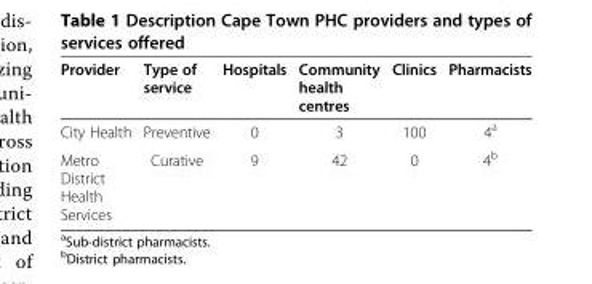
<table><thead><tr><td>Provider</td><td>Type of service</td><td>Hospitals</td><td>Community health centres</td><td>Clinics</td><td>Pharmacists</td></tr></thead><tbody><tr><td>City Health</td><td>Preventive</td><td>0</td><td>3</td><td>100</td><td>4<sup>a</sup></td></tr><tr><td>Metro District Health Services</td><td>Curative</td><td>9</td><td>42</td><td>0</td><td>4<sup>b</sup></td></tr></tbody></table>